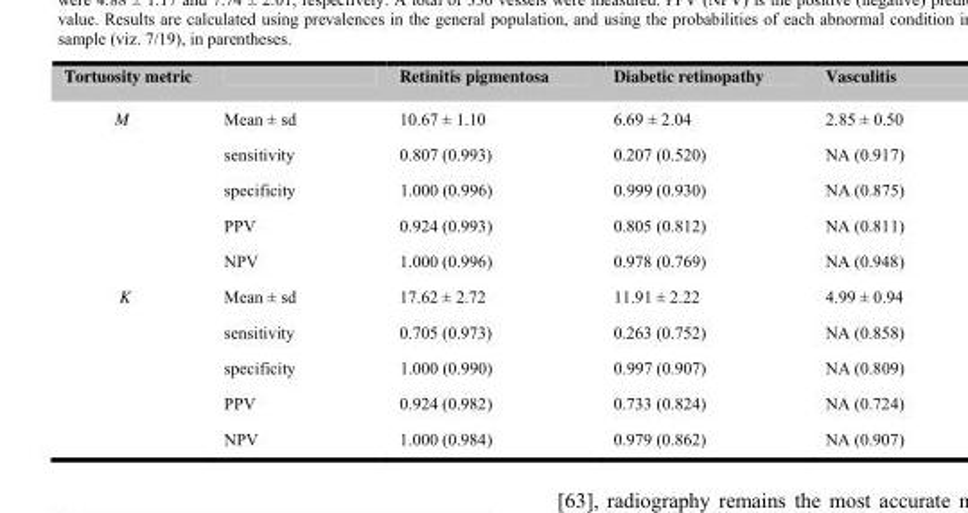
<table><thead><tr><td>Tortuosity metric</td><td></td><td>Retinitis pigmentosa</td><td>Diabetic retinopathy</td><td>Vasculitis</td></tr></thead><tbody><tr><td rowspan="5">M</td><td>Mean ± sd</td><td>10.67 ± 1.10</td><td>6.69 ± 2.04</td><td>2.85 ± 0.50</td></tr><tr><td>sensitivity</td><td>0.807 (0.993)</td><td>0.207 (0.520)</td><td>NA (0.917)</td></tr><tr><td>specificity</td><td>1.000 (0.996)</td><td>0.999 (0.930)</td><td>NA (0.875)</td></tr><tr><td>PPV</td><td>0.924 (0.993)</td><td>0.805 (0.812)</td><td>NA (0.811)</td></tr><tr><td>NPV</td><td>1.000 (0.996)</td><td>0.978 (0.769)</td><td>NA (0.948)</td></tr><tr><td rowspan="5">K</td><td>Mean ± sd</td><td>17.62 ± 2.72</td><td>11.91 ± 2.22</td><td>4.99 ± 0.94</td></tr><tr><td>sensitivity</td><td>0.705 (0.973)</td><td>0.263 (0.752)</td><td>NA (0.858)</td></tr><tr><td>specificity</td><td>1.000 (0.990)</td><td>0.997 (0.907)</td><td>NA (0.809)</td></tr><tr><td>PPV</td><td>0.924 (0.982)</td><td>0.733 (0.824)</td><td>NA (0.724)</td></tr><tr><td>NPV</td><td>1.000 (0.984)</td><td>0.979 (0.862)</td><td>NA (0.907)</td></tr></tbody></table>